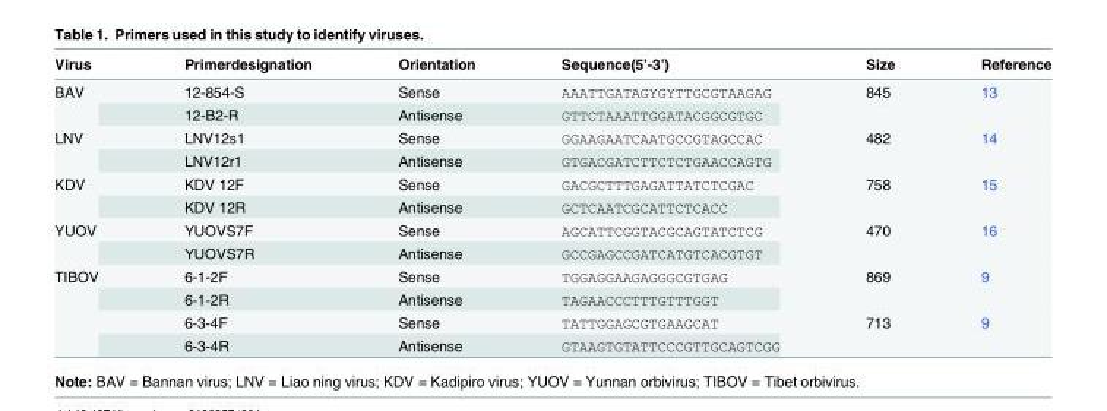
<table><thead><tr><td>Virus</td><td>Primerdesignation</td><td>Orientation</td><td>Sequence(5’-3’)</td><td>Size</td><td>Reference</td></tr></thead><tbody><tr><td rowspan="2">BAV</td><td>12-854-S</td><td>Sense</td><td>AAATTGATAGYGYTTGCGTAAGAG</td><td rowspan="2">845</td><td rowspan="2">13</td></tr><tr><td>12-B2-R</td><td>Antisense</td><td>GTTCTAAATTGGATACGGCGTGC</td></tr><tr><td rowspan="2">LNV</td><td>LNV12s1</td><td>Sense</td><td>GGAAGAATCAATGCCGTAGCCAC</td><td rowspan="2">482</td><td rowspan="2">14</td></tr><tr><td>LNV12r1</td><td>Antisense</td><td>GTGACGATCTTCTCTGAACCAGTG</td></tr><tr><td rowspan="2">KDV</td><td>KDV 12F</td><td>Sense</td><td>GACGCTTTGAGATTATCTCGAC</td><td rowspan="2">758</td><td rowspan="2">15</td></tr><tr><td>KDV 12R</td><td>Antisense</td><td>GCTCAATCGCATTCTCACC</td></tr><tr><td rowspan="2">YUOV</td><td>YUOVS7F</td><td>Sense</td><td>AGCATTCGGTACGCAGTATCTCG</td><td rowspan="2">470</td><td rowspan="2">16</td></tr><tr><td>YUOVS7R</td><td>Antisense</td><td>GCCGAGCCGATCATGTCACGTGT</td></tr><tr><td rowspan="4">TIBOV</td><td>6-1-2F</td><td>Sense</td><td>TGGAGGAAGAGGGCGTGAG</td><td rowspan="2">869</td><td rowspan="2">9</td></tr><tr><td>6-1-2R</td><td>Antisense</td><td>TAGAACCCTTTGTTTGGT</td></tr><tr><td>6-3-4F</td><td>Sense</td><td>TATTGGAGCGTGAAGCAT</td><td rowspan="2">713</td><td rowspan="2">9</td></tr><tr><td>6-3-4R</td><td>Antisense</td><td>GTAAGTGTATTCCCGTTGCAGTCGG</td></tr></tbody></table>